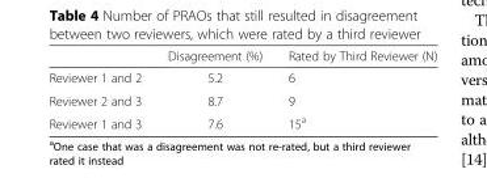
<table><thead><tr><td></td><td>Disagreement (%)</td><td>Rated by Third Reviewer (N)</td></tr></thead><tbody><tr><td>Reviewer 1 and 2</td><td>5.2</td><td>6</td></tr><tr><td>Reviewer 2 and 3</td><td>8.7</td><td>9</td></tr><tr><td>Reviewer 1 and 3</td><td>7.6</td><td>15<sup>a</sup></td></tr></tbody></table>